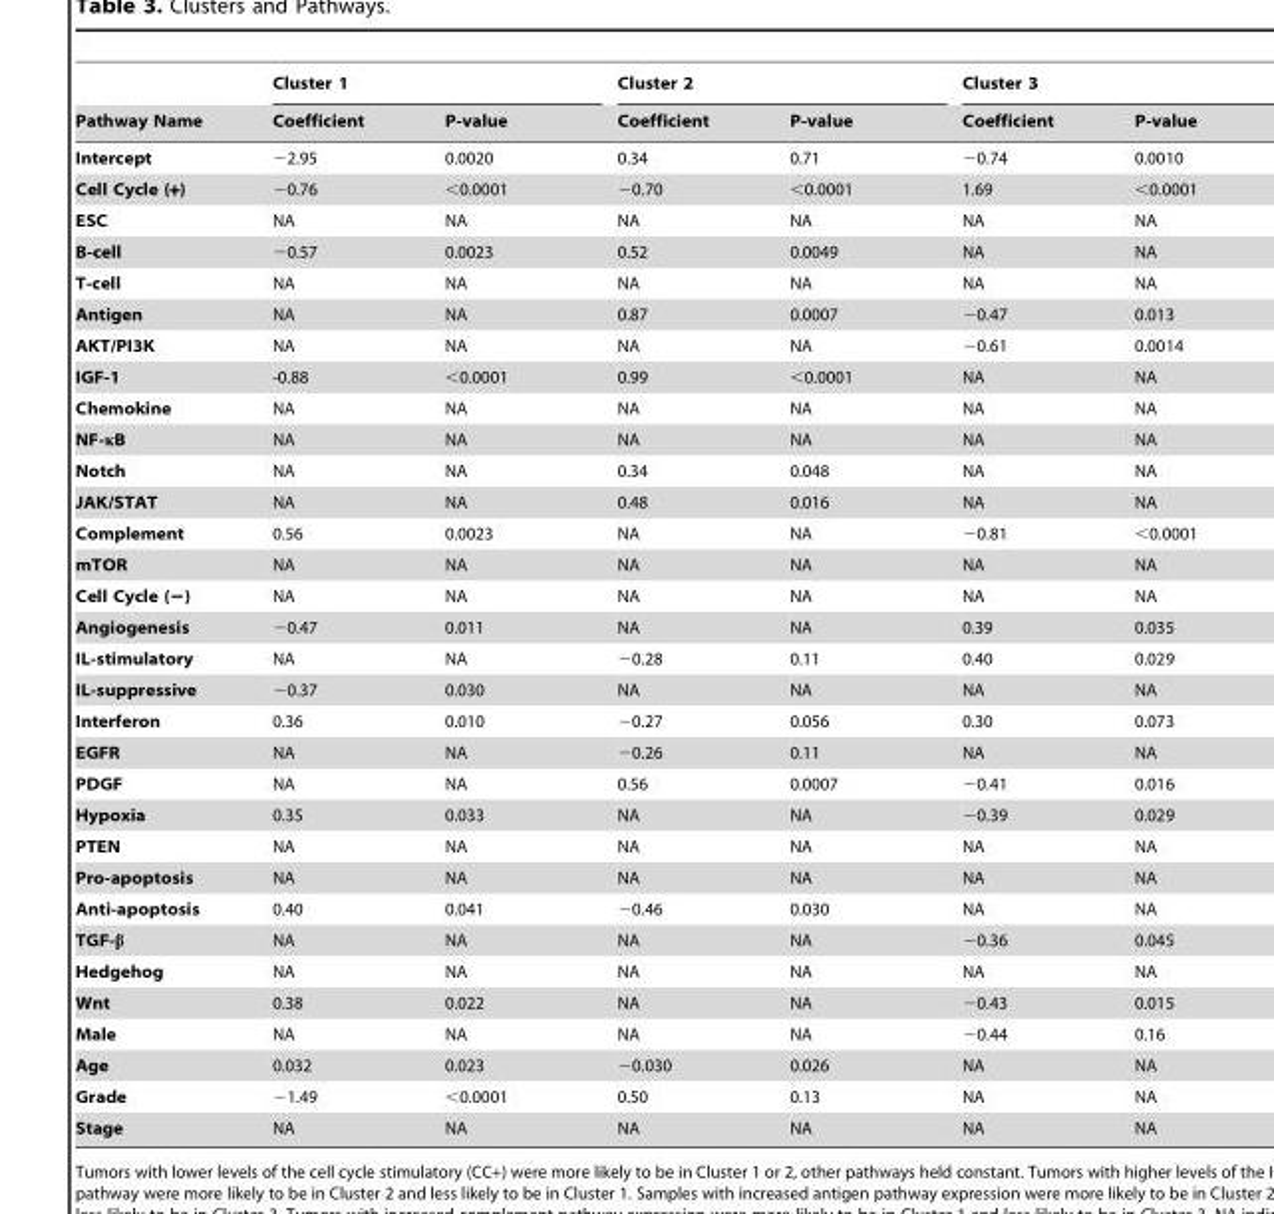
<table><thead><tr><td rowspan="2">Pathway Name</td><td colspan="2">Cluster 1</td><td colspan="2">Cluster 2</td><td colspan="2">Cluster 3</td></tr><tr><td>Coefficient</td><td>P-value</td><td>Coefficient</td><td>P-value</td><td>Coefficient</td><td>P-value</td></tr></thead><tbody><tr><td>Intercept</td><td>−2.95</td><td>0.0020</td><td>0.34</td><td>0.71</td><td>−0.74</td><td>0.0010</td></tr><tr><td>Cell Cycle (+)</td><td>−0.76</td><td>&lt;0.0001</td><td>−0.70</td><td>&lt;0.0001</td><td>1.69</td><td>&lt;0.0001</td></tr><tr><td>ESC</td><td>NA</td><td>NA</td><td>NA</td><td>NA</td><td>NA</td><td>NA</td></tr><tr><td>B-cell</td><td>−0.57</td><td>0.0023</td><td>0.52</td><td>0.0049</td><td>NA</td><td>NA</td></tr><tr><td>T-cell</td><td>NA</td><td>NA</td><td>NA</td><td>NA</td><td>NA</td><td>NA</td></tr><tr><td>Antigen</td><td>NA</td><td>NA</td><td>0.87</td><td>0.0007</td><td>−0.47</td><td>0.013</td></tr><tr><td>AKT/PI3K</td><td>NA</td><td>NA</td><td>NA</td><td>NA</td><td>−0.61</td><td>0.0014</td></tr><tr><td>IGF-1</td><td>-0.88</td><td>&lt;0.0001</td><td>0.99</td><td>&lt;0.0001</td><td>NA</td><td>NA</td></tr><tr><td>Chemokine</td><td>NA</td><td>NA</td><td>NA</td><td>NA</td><td>NA</td><td>NA</td></tr><tr><td>NF-κB</td><td>NA</td><td>NA</td><td>NA</td><td>NA</td><td>NA</td><td>NA</td></tr><tr><td>Notch</td><td>NA</td><td>NA</td><td>0.34</td><td>0.048</td><td>NA</td><td>NA</td></tr><tr><td>JAK/STAT</td><td>NA</td><td>NA</td><td>0.48</td><td>0.016</td><td>NA</td><td>NA</td></tr><tr><td>Complement</td><td>0.56</td><td>0.0023</td><td>NA</td><td>NA</td><td>−0.81</td><td>&lt;0.0001</td></tr><tr><td>mTOR</td><td>NA</td><td>NA</td><td>NA</td><td>NA</td><td>NA</td><td>NA</td></tr><tr><td>Cell Cycle (−)</td><td>NA</td><td>NA</td><td>NA</td><td>NA</td><td>NA</td><td>NA</td></tr><tr><td>Angiogenesis</td><td>−0.47</td><td>0.011</td><td>NA</td><td>NA</td><td>0.39</td><td>0.035</td></tr><tr><td>IL-stimulatory</td><td>NA</td><td>NA</td><td>−0.28</td><td>0.11</td><td>0.40</td><td>0.029</td></tr><tr><td>IL-suppressive</td><td>−0.37</td><td>0.030</td><td>NA</td><td>NA</td><td>NA</td><td>NA</td></tr><tr><td>Interferon</td><td>0.36</td><td>0.010</td><td>−0.27</td><td>0.056</td><td>0.30</td><td>0.073</td></tr><tr><td>EGFR</td><td>NA</td><td>NA</td><td>−0.26</td><td>0.11</td><td>NA</td><td>NA</td></tr><tr><td>PDGF</td><td>NA</td><td>NA</td><td>0.56</td><td>0.0007</td><td>−0.41</td><td>0.016</td></tr><tr><td>Hypoxia</td><td>0.35</td><td>0.033</td><td>NA</td><td>NA</td><td>−0.39</td><td>0.029</td></tr><tr><td>PTEN</td><td>NA</td><td>NA</td><td>NA</td><td>NA</td><td>NA</td><td>NA</td></tr><tr><td>Pro-apoptosis</td><td>NA</td><td>NA</td><td>NA</td><td>NA</td><td>NA</td><td>NA</td></tr><tr><td>Anti-apoptosis</td><td>0.40</td><td>0.041</td><td>−0.46</td><td>0.030</td><td>NA</td><td>NA</td></tr><tr><td>TGF-β</td><td>NA</td><td>NA</td><td>NA</td><td>NA</td><td>−0.36</td><td>0.045</td></tr><tr><td>Hedgehog</td><td>NA</td><td>NA</td><td>NA</td><td>NA</td><td>NA</td><td>NA</td></tr><tr><td>Wnt</td><td>0.38</td><td>0.022</td><td>NA</td><td>NA</td><td>−0.43</td><td>0.015</td></tr><tr><td>Male</td><td>NA</td><td>NA</td><td>NA</td><td>NA</td><td>−0.44</td><td>0.16</td></tr><tr><td>Age</td><td>0.032</td><td>0.023</td><td>−0.030</td><td>0.026</td><td>NA</td><td>NA</td></tr><tr><td>Grade</td><td>−1.49</td><td>&lt;0.0001</td><td>0.50</td><td>0.13</td><td>NA</td><td>NA</td></tr><tr><td>Stage</td><td>NA</td><td>NA</td><td>NA</td><td>NA</td><td>NA</td><td>NA</td></tr></tbody></table>